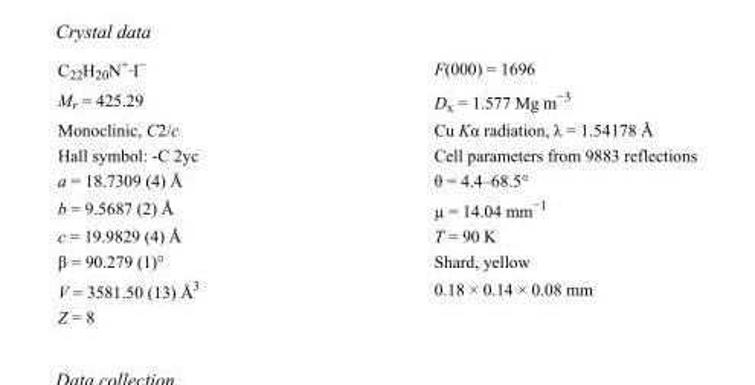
<table><tbody><tr><td>C<sub>22</sub>H<sub>20</sub>N<sup>+</sup>·I<sup>−</sup></td><td>F(000) = 1696</td></tr><tr><td>M<sub>r</sub> = 425.29</td><td>D<sub>x</sub> = 1.577 Mg m<sup>−3</sup></td></tr><tr><td>Monoclinic, C2/c</td><td>Cu Kα radiation, λ = 1.54178 Å</td></tr><tr><td>Hall symbol: -C 2yc</td><td>Cell parameters from 9883 reflections</td></tr><tr><td>a = 18.7309 (4) Å</td><td>θ = 4.4–68.5°</td></tr><tr><td>b = 9.5687 (2) Å</td><td>µ = 14.04 mm<sup>−1</sup></td></tr><tr><td>c = 19.9829 (4) Å</td><td>T = 90 K</td></tr><tr><td>β = 90.279 (1)°</td><td>Shard, yellow</td></tr><tr><td>V = 3581.50 (13) Å<sup>3</sup></td><td>0.18 × 0.14 × 0.08 mm</td></tr><tr><td>Z = 8</td><td></td></tr></tbody></table>